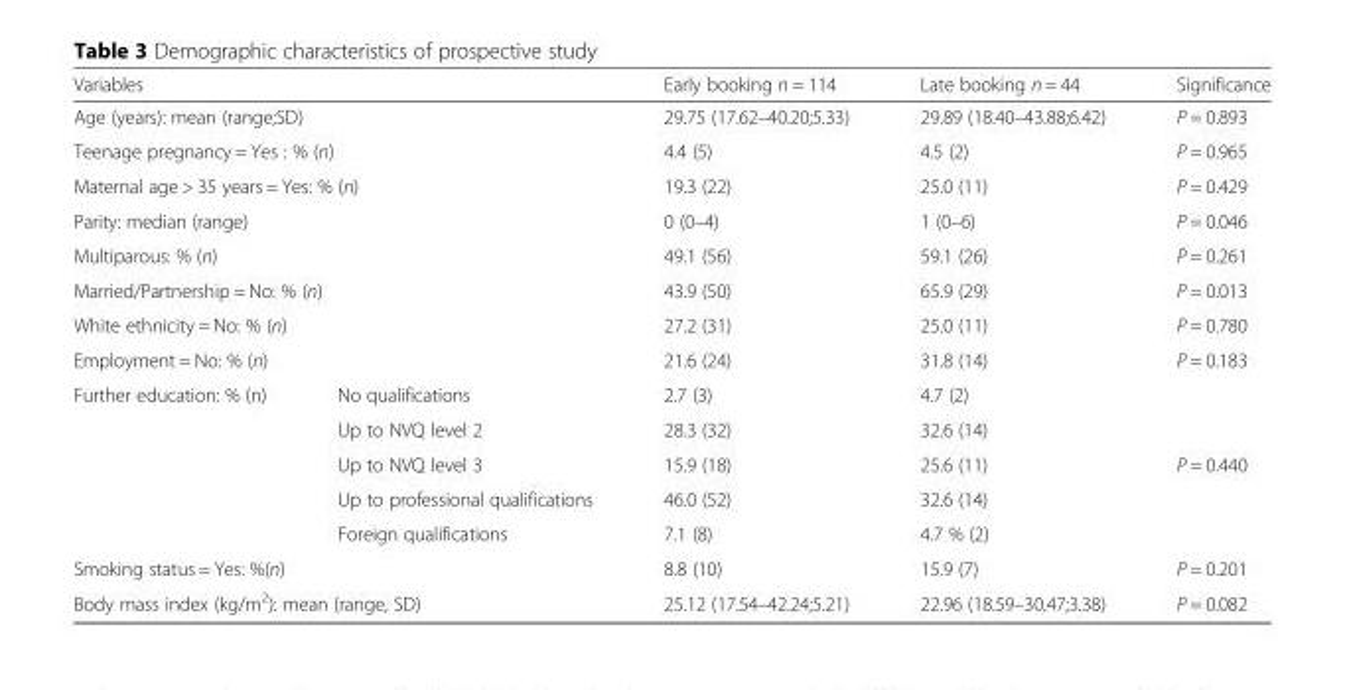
<table><thead><tr><td colspan="2">Variables</td><td>Early booking n = 114</td><td>Late booking n = 44</td><td>Significance</td></tr></thead><tbody><tr><td colspan="2">Age (years): mean (range;SD)</td><td>29.75 (17.62–40.20;5.33)</td><td>29.89 (18.40–43.88;6.42)</td><td>P = 0.893</td></tr><tr><td colspan="2">Teenage pregnancy = Yes : % (n)</td><td>4.4 (5)</td><td>4.5 (2)</td><td>P = 0.965</td></tr><tr><td colspan="2">Maternal age &gt; 35 years = Yes: % (n)</td><td>19.3 (22)</td><td>25.0 (11)</td><td>P = 0.429</td></tr><tr><td colspan="2">Parity: median (range)</td><td>0 (0–4)</td><td>1 (0–6)</td><td>P = 0.046</td></tr><tr><td colspan="2">Multiparous: % (n)</td><td>49.1 (56)</td><td>59.1 (26)</td><td>P = 0.261</td></tr><tr><td colspan="2">Married/Partnership = No: % (n)</td><td>43.9 (50)</td><td>65.9 (29)</td><td>P = 0.013</td></tr><tr><td colspan="2">White ethnicity = No: % (n)</td><td>27.2 (31)</td><td>25.0 (11)</td><td>P = 0.780</td></tr><tr><td colspan="2">Employment = No: % (n)</td><td>21.6 (24)</td><td>31.8 (14)</td><td>P = 0.183</td></tr><tr><td rowspan="5">Further education: % (n)</td><td>No qualifications</td><td>2.7 (3)</td><td>4.7 (2)</td><td></td></tr><tr><td>Up to NVQ level 2</td><td>28.3 (32)</td><td>32.6 (14)</td><td></td></tr><tr><td>Up to NVQ level 3</td><td>15.9 (18)</td><td>25.6 (11)</td><td>P = 0.440</td></tr><tr><td>Up to professional qualifications</td><td>46.0 (52)</td><td>32.6 (14)</td><td></td></tr><tr><td>Foreign qualifications</td><td>7.1 (8)</td><td>4.7 % (2)</td><td></td></tr><tr><td colspan="2">Smoking status = Yes: %(n)</td><td>8.8 (10)</td><td>15.9 (7)</td><td>P = 0.201</td></tr><tr><td colspan="2">Body mass index (kg/m<sup>2</sup>): mean (range, SD)</td><td>25.12 (17.54–42.24;5.21)</td><td>22.96 (18.59–30.47;3.38)</td><td>P = 0.082</td></tr></tbody></table>